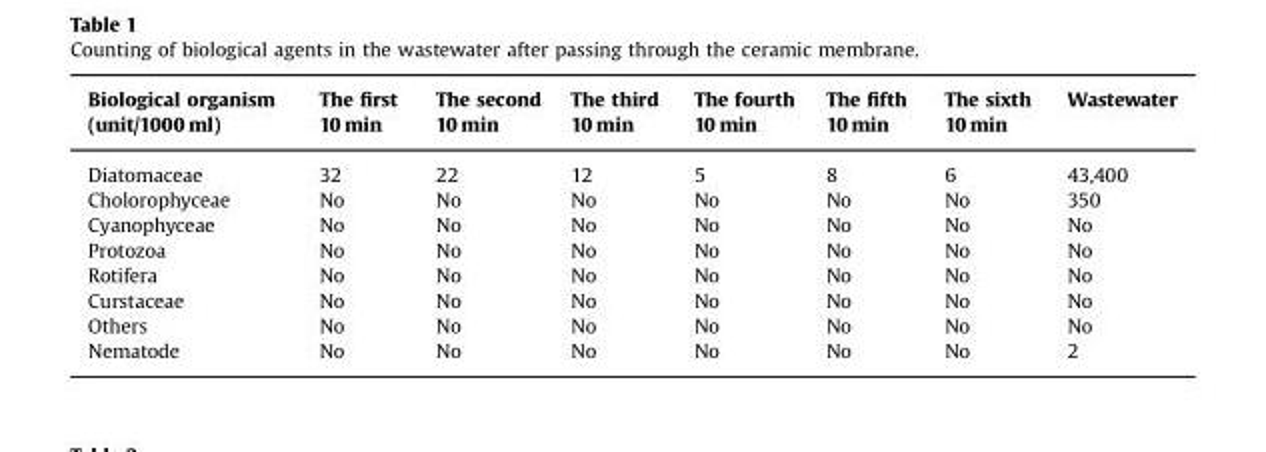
<table><thead><tr><td>Biological organism (unit/1000 ml)</td><td>The first 10 min</td><td>The second 10 min</td><td>The third 10 min</td><td>The fourth 10 min</td><td>The fifth 10 min</td><td>The sixth 10 min</td><td>Wastewater</td></tr></thead><tbody><tr><td>Diatomaceae</td><td>32</td><td>22</td><td>12</td><td>5</td><td>8</td><td>6</td><td>43,400</td></tr><tr><td>Cholorophyceae</td><td>No</td><td>No</td><td>No</td><td>No</td><td>No</td><td>No</td><td>350</td></tr><tr><td>Cyanophyceae</td><td>No</td><td>No</td><td>No</td><td>No</td><td>No</td><td>No</td><td>No</td></tr><tr><td>Protozoa</td><td>No</td><td>No</td><td>No</td><td>No</td><td>No</td><td>No</td><td>No</td></tr><tr><td>Rotifera</td><td>No</td><td>No</td><td>No</td><td>No</td><td>No</td><td>No</td><td>No</td></tr><tr><td>Curstaceae</td><td>No</td><td>No</td><td>No</td><td>No</td><td>No</td><td>No</td><td>No</td></tr><tr><td>Others</td><td>No</td><td>No</td><td>No</td><td>No</td><td>No</td><td>No</td><td>No</td></tr><tr><td>Nematode</td><td>No</td><td>No</td><td>No</td><td>No</td><td>No</td><td>No</td><td>2</td></tr></tbody></table>